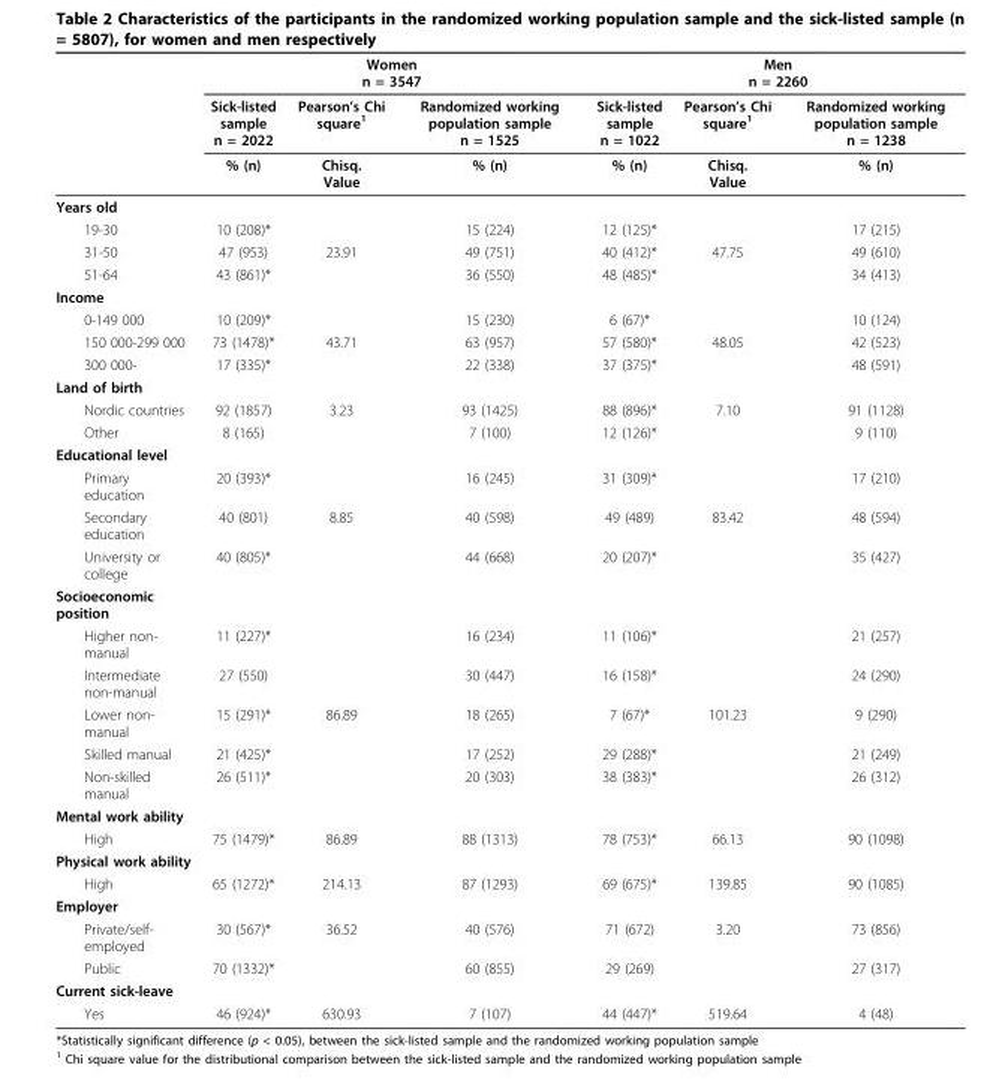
<table><thead><tr><td rowspan="3"></td><td colspan="3">Women n = 3547</td><td colspan="3">Men n = 2260</td></tr><tr><td rowspan="2">Sick-listed sample n = 2022 % (n)</td><td rowspan="2">Pearson’s Chi square<sup>1</sup> Chisq. Value</td><td rowspan="2">Randomized working population sample n = 1525 % (n)</td><td rowspan="2">Sick-listed sample n = 1022 % (n)</td><td rowspan="2">Pearson’s Chi square<sup>1</sup> Chisq. Value</td><td rowspan="2">Randomized working population sample n = 1238 % (n)</td></tr><tr></tr></thead><tbody><tr><td colspan="7">Years old</td></tr><tr><td>19-30</td><td>10 (208)*</td><td></td><td>15 (224)</td><td>12 (125)*</td><td></td><td>17 (215)</td></tr><tr><td>31-50</td><td>47 (953)</td><td>23.91</td><td>49 (751)</td><td>40 (412)*</td><td>47.75</td><td>49 (610)</td></tr><tr><td>51-64</td><td>43 (861)*</td><td></td><td>36 (550)</td><td>48 (485)*</td><td></td><td>34 (413)</td></tr><tr><td colspan="7">Income</td></tr><tr><td>0-149 000</td><td>10 (209)*</td><td></td><td>15 (230)</td><td>6 (67)*</td><td></td><td>10 (124)</td></tr><tr><td>150 000-299 000</td><td>73 (1478)*</td><td>43.71</td><td>63 (957)</td><td>57 (580)*</td><td>48.05</td><td>42 (523)</td></tr><tr><td>300 000-</td><td>17 (335)*</td><td></td><td>22 (338)</td><td>37 (375)*</td><td></td><td>48 (591)</td></tr><tr><td colspan="7">Land of birth</td></tr><tr><td>Nordic countries</td><td>92 (1857)</td><td>3.23</td><td>93 (1425)</td><td>88 (896)*</td><td>7.10</td><td>91 (1128)</td></tr><tr><td>Other</td><td>8 (165)</td><td></td><td>7 (100)</td><td>12 (126)*</td><td></td><td>9 (110)</td></tr><tr><td colspan="7">Educational level</td></tr><tr><td>Primary education</td><td>20 (393)*</td><td></td><td>16 (245)</td><td>31 (309)*</td><td></td><td>17 (210)</td></tr><tr><td>Secondary education</td><td>40 (801)</td><td>8.85</td><td>40 (598)</td><td>49 (489)</td><td>83.42</td><td>48 (594)</td></tr><tr><td>University or college</td><td>40 (805)*</td><td></td><td>44 (668)</td><td>20 (207)*</td><td></td><td>35 (427)</td></tr><tr><td colspan="7">Socioeconomic position</td></tr><tr><td>Higher non- manual</td><td>11 (227)*</td><td></td><td>16 (234)</td><td>11 (106)*</td><td></td><td>21 (257)</td></tr><tr><td>Intermediate non-manual</td><td>27 (550)</td><td></td><td>30 (447)</td><td>16 (158)*</td><td></td><td>24 (290)</td></tr><tr><td>Lower non- manual</td><td>15 (291)*</td><td>86.89</td><td>18 (265)</td><td>7 (67)*</td><td>101.23</td><td>9 (290)</td></tr><tr><td>Skilled manual</td><td>21 (425)*</td><td></td><td>17 (252)</td><td>29 (288)*</td><td></td><td>21 (249)</td></tr><tr><td>Non-skilled manual</td><td>26 (511)*</td><td></td><td>20 (303)</td><td>38 (383)*</td><td></td><td>26 (312)</td></tr><tr><td colspan="7">Mental work ability</td></tr><tr><td>High</td><td>75 (1479)*</td><td>86.89</td><td>88 (1313)</td><td>78 (753)*</td><td>66.13</td><td>90 (1098)</td></tr><tr><td colspan="7">Physical work ability</td></tr><tr><td>High</td><td>65 (1272)*</td><td>214.13</td><td>87 (1293)</td><td>69 (675)*</td><td>139.85</td><td>90 (1085)</td></tr><tr><td colspan="7">Employer</td></tr><tr><td>Private/self- employed</td><td>30 (567)*</td><td>36.52</td><td>40 (576)</td><td>71 (672)</td><td>3.20</td><td>73 (856)</td></tr><tr><td>Public</td><td>70 (1332)*</td><td></td><td>60 (855)</td><td>29 (269)</td><td></td><td>27 (317)</td></tr><tr><td colspan="7">Current sick-leave</td></tr><tr><td>Yes</td><td>46 (924)*</td><td>630.93</td><td>7 (107)</td><td>44 (447)*</td><td>519.64</td><td>4 (48)</td></tr></tbody></table>